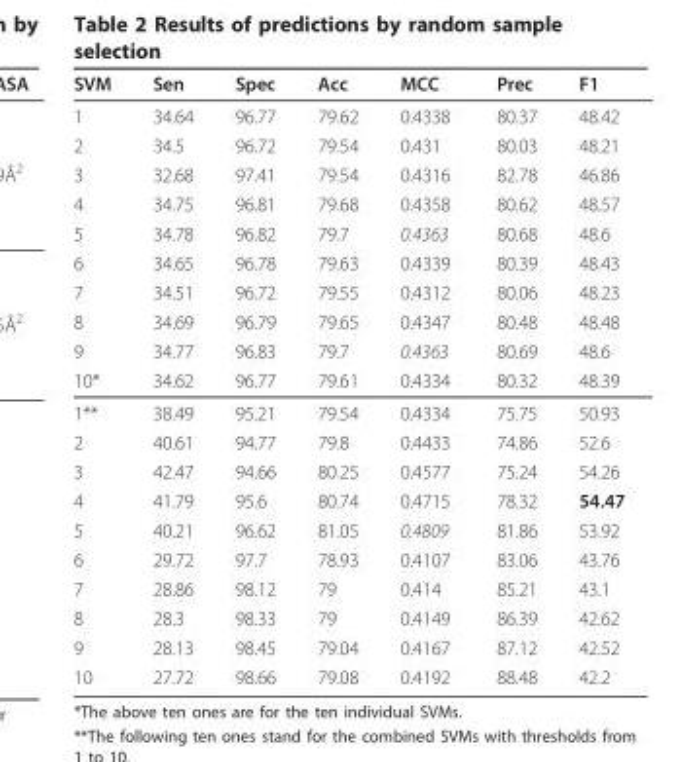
<table><thead><tr><td>SVM</td><td>Sen</td><td>Spec</td><td>Acc</td><td>MCC</td><td>Prec</td><td>F1</td></tr></thead><tbody><tr><td>1</td><td>34.64</td><td>96.77</td><td>79.62</td><td>0.4338</td><td>80.37</td><td>48.42</td></tr><tr><td>2</td><td>34.5</td><td>96.72</td><td>79.54</td><td>0.431</td><td>80.03</td><td>48.21</td></tr><tr><td>3</td><td>32.68</td><td>97.41</td><td>79.54</td><td>0.4316</td><td>82.78</td><td>46.86</td></tr><tr><td>4</td><td>34.75</td><td>96.81</td><td>79.68</td><td>0.4358</td><td>80.62</td><td>48.57</td></tr><tr><td>5</td><td>34.78</td><td>96.82</td><td>79.7</td><td>0.4363</td><td>80.68</td><td>48.6</td></tr><tr><td>6</td><td>34.65</td><td>96.78</td><td>79.63</td><td>0.4339</td><td>80.39</td><td>48.43</td></tr><tr><td>7</td><td>34.51</td><td>96.72</td><td>79.55</td><td>0.4312</td><td>80.06</td><td>48.23</td></tr><tr><td>8</td><td>34.69</td><td>96.79</td><td>79.65</td><td>0.4347</td><td>80.48</td><td>48.48</td></tr><tr><td>9</td><td>34.77</td><td>96.83</td><td>79.7</td><td>0.4363</td><td>80.69</td><td>48.6</td></tr><tr><td>10*</td><td>34.62</td><td>96.77</td><td>79.61</td><td>0.4334</td><td>80.32</td><td>48.39</td></tr><tr><td>1**</td><td>38.49</td><td>95.21</td><td>79.54</td><td>0.4334</td><td>75.75</td><td>50.93</td></tr><tr><td>2</td><td>40.61</td><td>94.77</td><td>79.8</td><td>0.4433</td><td>74.86</td><td>52.6</td></tr><tr><td>3</td><td>42.47</td><td>94.66</td><td>80.25</td><td>0.4577</td><td>75.24</td><td>54.26</td></tr><tr><td>4</td><td>41.79</td><td>95.6</td><td>80.74</td><td>0.4715</td><td>78.32</td><td>54.47</td></tr><tr><td>5</td><td>40.21</td><td>96.62</td><td>81.05</td><td>0.4809</td><td>81.86</td><td>53.92</td></tr><tr><td>6</td><td>29.72</td><td>97.7</td><td>78.93</td><td>0.4107</td><td>83.06</td><td>43.76</td></tr><tr><td>7</td><td>28.86</td><td>98.12</td><td>79</td><td>0.414</td><td>85.21</td><td>43.1</td></tr><tr><td>8</td><td>28.3</td><td>98.33</td><td>79</td><td>0.4149</td><td>86.39</td><td>42.62</td></tr><tr><td>9</td><td>28.13</td><td>98.45</td><td>79.04</td><td>0.4167</td><td>87.12</td><td>42.52</td></tr><tr><td>10</td><td>27.72</td><td>98.66</td><td>79.08</td><td>0.4192</td><td>88.48</td><td>42.2</td></tr></tbody></table>